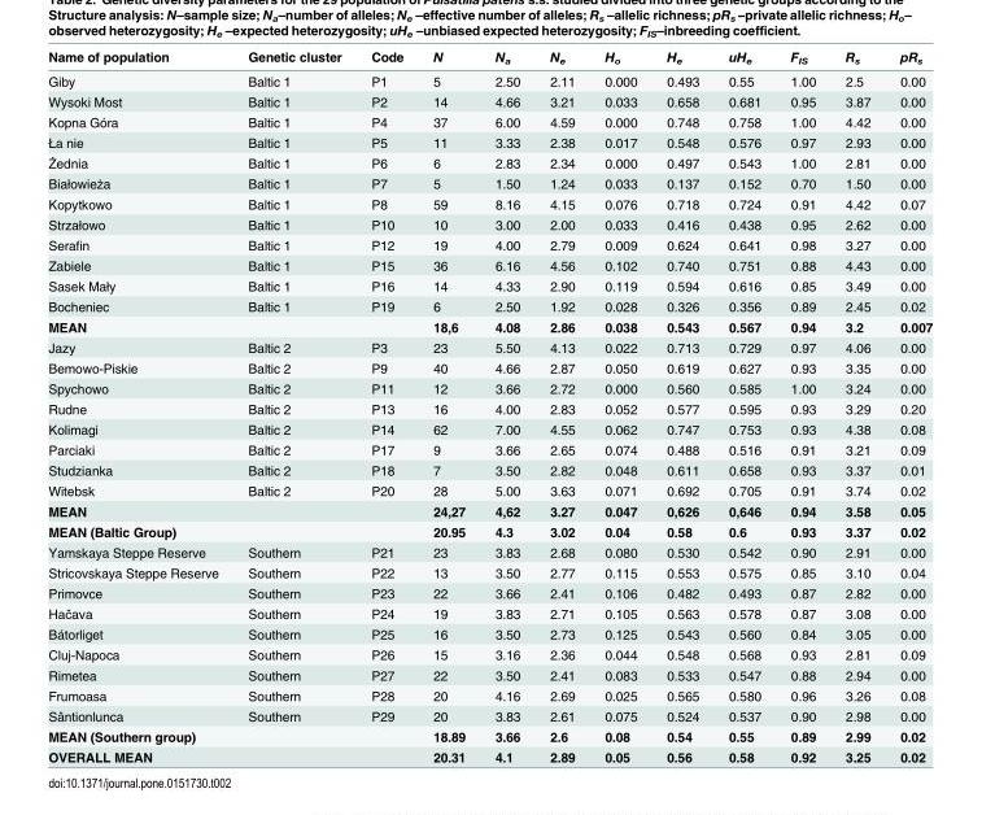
<table><thead><tr><td>Name of population</td><td>Genetic cluster</td><td>Code</td><td>N</td><td>N<sub>a</sub></td><td>N<sub>e</sub></td><td>H<sub>o</sub></td><td>H<sub>e</sub></td><td>uH<sub>e</sub></td><td>F<sub>IS</sub></td><td>R<sub>s</sub></td><td>pR<sub>s</sub></td></tr></thead><tbody><tr><td>Giby</td><td>Baltic 1</td><td>P1</td><td>5</td><td>2.50</td><td>2.11</td><td>0.000</td><td>0.493</td><td>0.55</td><td>1.00</td><td>2.5</td><td>0.00</td></tr><tr><td>Wysoki Most</td><td>Baltic 1</td><td>P2</td><td>14</td><td>4.66</td><td>3.21</td><td>0.033</td><td>0.658</td><td>0.681</td><td>0.95</td><td>3.87</td><td>0.00</td></tr><tr><td>Kopna Góra</td><td>Baltic 1</td><td>P4</td><td>37</td><td>6.00</td><td>4.59</td><td>0.000</td><td>0.748</td><td>0.758</td><td>1.00</td><td>4.42</td><td>0.00</td></tr><tr><td>Łaźnie</td><td>Baltic 1</td><td>P5</td><td>11</td><td>3.33</td><td>2.38</td><td>0.017</td><td>0.548</td><td>0.576</td><td>0.97</td><td>2.93</td><td>0.00</td></tr><tr><td>Żednia</td><td>Baltic 1</td><td>P6</td><td>6</td><td>2.83</td><td>2.34</td><td>0.000</td><td>0.497</td><td>0.543</td><td>1.00</td><td>2.81</td><td>0.00</td></tr><tr><td>Białowieża</td><td>Baltic 1</td><td>P7</td><td>5</td><td>1.50</td><td>1.24</td><td>0.033</td><td>0.137</td><td>0.152</td><td>0.70</td><td>1.50</td><td>0.00</td></tr><tr><td>Kopytkowo</td><td>Baltic 1</td><td>P8</td><td>59</td><td>8.16</td><td>4.15</td><td>0.076</td><td>0.718</td><td>0.724</td><td>0.91</td><td>4.42</td><td>0.07</td></tr><tr><td>Strzałowo</td><td>Baltic 1</td><td>P10</td><td>10</td><td>3.00</td><td>2.00</td><td>0.033</td><td>0.416</td><td>0.438</td><td>0.95</td><td>2.62</td><td>0.00</td></tr><tr><td>Serafin</td><td>Baltic 1</td><td>P12</td><td>19</td><td>4.00</td><td>2.79</td><td>0.009</td><td>0.624</td><td>0.641</td><td>0.98</td><td>3.27</td><td>0.00</td></tr><tr><td>Zabiele</td><td>Baltic 1</td><td>P15</td><td>36</td><td>6.16</td><td>4.56</td><td>0.102</td><td>0.740</td><td>0.751</td><td>0.88</td><td>4.43</td><td>0.00</td></tr><tr><td>Sasek Mały</td><td>Baltic 1</td><td>P16</td><td>14</td><td>4.33</td><td>2.90</td><td>0.119</td><td>0.594</td><td>0.616</td><td>0.85</td><td>3.49</td><td>0.00</td></tr><tr><td>Bocheniec</td><td>Baltic 1</td><td>P19</td><td>6</td><td>2.50</td><td>1.92</td><td>0.028</td><td>0.326</td><td>0.356</td><td>0.89</td><td>2.45</td><td>0.02</td></tr><tr><td>MEAN</td><td></td><td></td><td>18,6</td><td>4.08</td><td>2.86</td><td>0.038</td><td>0.543</td><td>0.567</td><td>0.94</td><td>3.2</td><td>0.007</td></tr><tr><td>Jazy</td><td>Baltic 2</td><td>P3</td><td>23</td><td>5.50</td><td>4.13</td><td>0.022</td><td>0.713</td><td>0.729</td><td>0.97</td><td>4.06</td><td>0.00</td></tr><tr><td>Bemowo-Piskie</td><td>Baltic 2</td><td>P9</td><td>40</td><td>4.66</td><td>2.87</td><td>0.050</td><td>0.619</td><td>0.627</td><td>0.93</td><td>3.35</td><td>0.00</td></tr><tr><td>Spychowo</td><td>Baltic 2</td><td>P11</td><td>12</td><td>3.66</td><td>2.72</td><td>0.000</td><td>0.560</td><td>0.585</td><td>1.00</td><td>3.24</td><td>0.00</td></tr><tr><td>Rudne</td><td>Baltic 2</td><td>P13</td><td>16</td><td>4.00</td><td>2.83</td><td>0.052</td><td>0.577</td><td>0.595</td><td>0.93</td><td>3.29</td><td>0.20</td></tr><tr><td>Kolimagi</td><td>Baltic 2</td><td>P14</td><td>62</td><td>7.00</td><td>4.55</td><td>0.062</td><td>0.747</td><td>0.753</td><td>0.93</td><td>4.38</td><td>0.08</td></tr><tr><td>Parciaki</td><td>Baltic 2</td><td>P17</td><td>9</td><td>3.66</td><td>2.65</td><td>0.074</td><td>0.488</td><td>0.516</td><td>0.91</td><td>3.21</td><td>0.09</td></tr><tr><td>Studzianka</td><td>Baltic 2</td><td>P18</td><td>7</td><td>3.50</td><td>2.82</td><td>0.048</td><td>0.611</td><td>0.658</td><td>0.93</td><td>3.37</td><td>0.01</td></tr><tr><td>Witebsk</td><td>Baltic 2</td><td>P20</td><td>28</td><td>5.00</td><td>3.63</td><td>0.071</td><td>0.692</td><td>0.705</td><td>0.91</td><td>3.74</td><td>0.02</td></tr><tr><td>MEAN</td><td></td><td></td><td>24,27</td><td>4,62</td><td>3.27</td><td>0.047</td><td>0,626</td><td>0,646</td><td>0.94</td><td>3.58</td><td>0.05</td></tr><tr><td>MEAN (Baltic Group)</td><td></td><td></td><td>20.95</td><td>4.3</td><td>3.02</td><td>0.04</td><td>0.58</td><td>0.6</td><td>0.93</td><td>3.37</td><td>0.02</td></tr><tr><td>Yamskaya Steppe Reserve</td><td>Southern</td><td>P21</td><td>23</td><td>3.83</td><td>2.68</td><td>0.080</td><td>0.530</td><td>0.542</td><td>0.90</td><td>2.91</td><td>0.00</td></tr><tr><td>Stricovskaya Steppe Reserve</td><td>Southern</td><td>P22</td><td>13</td><td>3.50</td><td>2.77</td><td>0.115</td><td>0.553</td><td>0.575</td><td>0.85</td><td>3.10</td><td>0.04</td></tr><tr><td>Primovce</td><td>Southern</td><td>P23</td><td>22</td><td>3.66</td><td>2.41</td><td>0.106</td><td>0.482</td><td>0.493</td><td>0.87</td><td>2.82</td><td>0.00</td></tr><tr><td>Hačava</td><td>Southern</td><td>P24</td><td>19</td><td>3.83</td><td>2.71</td><td>0.105</td><td>0.563</td><td>0.578</td><td>0.87</td><td>3.08</td><td>0.00</td></tr><tr><td>Bátorliget</td><td>Southern</td><td>P25</td><td>16</td><td>3.50</td><td>2.73</td><td>0.125</td><td>0.543</td><td>0.560</td><td>0.84</td><td>3.05</td><td>0.00</td></tr><tr><td>Cluj-Napoca</td><td>Southern</td><td>P26</td><td>15</td><td>3.16</td><td>2.36</td><td>0.044</td><td>0.548</td><td>0.568</td><td>0.93</td><td>2.81</td><td>0.09</td></tr><tr><td>Rimetea</td><td>Southern</td><td>P27</td><td>22</td><td>3.50</td><td>2.41</td><td>0.083</td><td>0.533</td><td>0.547</td><td>0.88</td><td>2.94</td><td>0.00</td></tr><tr><td>Frumoasa</td><td>Southern</td><td>P28</td><td>20</td><td>4.16</td><td>2.69</td><td>0.025</td><td>0.565</td><td>0.580</td><td>0.96</td><td>3.26</td><td>0.08</td></tr><tr><td>Sântionlunca</td><td>Southern</td><td>P29</td><td>20</td><td>3.83</td><td>2.61</td><td>0.075</td><td>0.524</td><td>0.537</td><td>0.90</td><td>2.98</td><td>0.00</td></tr><tr><td>MEAN (Southern group)</td><td></td><td></td><td>18.89</td><td>3.66</td><td>2.6</td><td>0.08</td><td>0.54</td><td>0.55</td><td>0.89</td><td>2.99</td><td>0.02</td></tr><tr><td>OVERALL MEAN</td><td></td><td></td><td>20.31</td><td>4.1</td><td>2.89</td><td>0.05</td><td>0.56</td><td>0.58</td><td>0.92</td><td>3.25</td><td>0.02</td></tr></tbody></table>